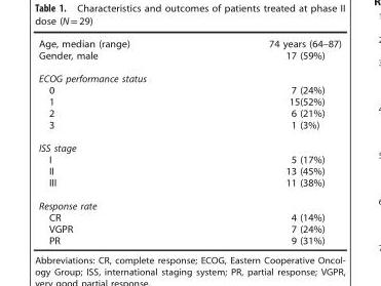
<table><thead><tr><td>Age, median (range)</td><td>74 years (64–87)</td></tr></thead><tbody><tr><td>Gender, male</td><td>17 (59%)</td></tr><tr><td colspan="2">ECOG performance status</td></tr><tr><td>0</td><td>7 (24%)</td></tr><tr><td>1</td><td>15(52%)</td></tr><tr><td>2</td><td>6 (21%)</td></tr><tr><td>3</td><td>1 (3%)</td></tr><tr><td colspan="2">ISS stage</td></tr><tr><td>I</td><td>5 (17%)</td></tr><tr><td>II</td><td>13 (45%)</td></tr><tr><td>III</td><td>11 (38%)</td></tr><tr><td colspan="2">Response rate</td></tr><tr><td>CR</td><td>4 (14%)</td></tr><tr><td>VGPR</td><td>7 (24%)</td></tr><tr><td>PR</td><td>9 (31%)</td></tr></tbody></table>